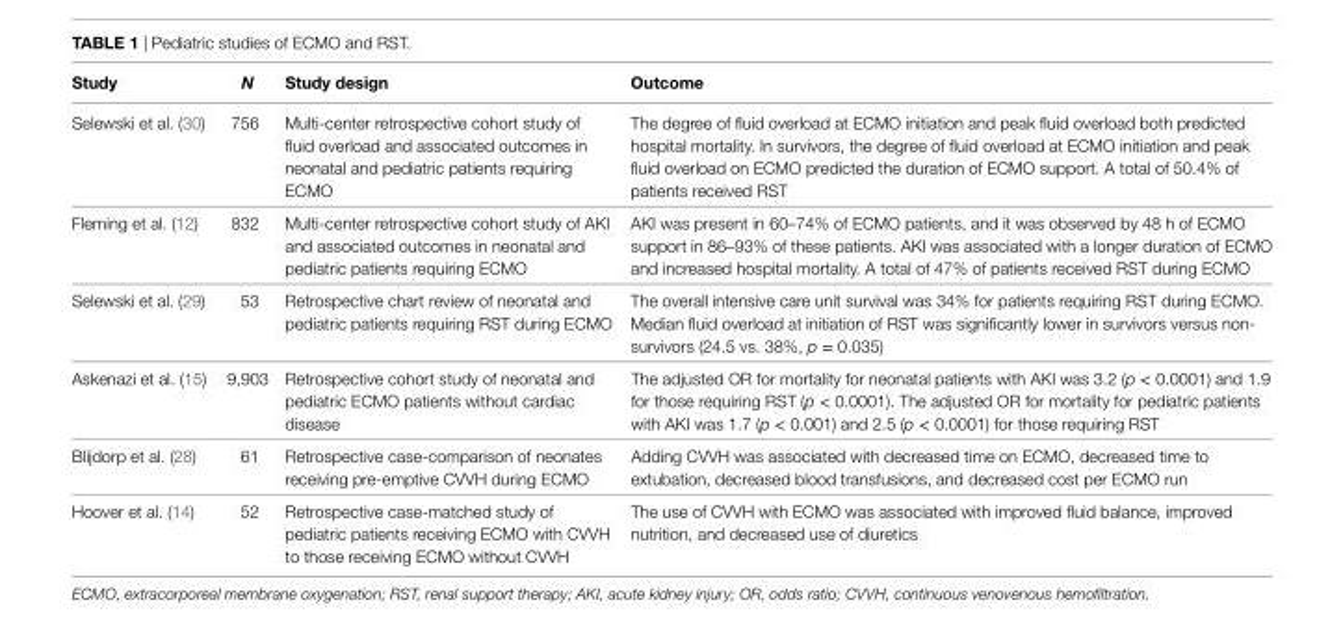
<table><thead><tr><td>Study</td><td>N</td><td>Study design</td><td>Outcome</td></tr></thead><tbody><tr><td>Selewski et al. (30)</td><td>756</td><td>Multi-center retrospective cohort study of fluid overload and associated outcomes in neonatal and pediatric patients requiring ECMO</td><td>The degree of fluid overload at ECMO initiation and peak fluid overload both predicted hospital mortality. In survivors, the degree of fluid overload at ECMO initiation and peak fluid overload on ECMO predicted the duration of ECMO support. A total of 50.4% of patients received RST</td></tr><tr><td>Fleming et al. (12)</td><td>832</td><td>Multi-center retrospective cohort study of AKI and associated outcomes in neonatal and pediatric patients requiring ECMO</td><td>AKI was present in 60–74% of ECMO patients, and it was observed by 48 h of ECMO support in 86–93% of these patients. AKI was associated with a longer duration of ECMO and increased hospital mortality. A total of 47% of patients received RST during ECMO</td></tr><tr><td>Selewski et al. (29)</td><td>53</td><td>Retrospective chart review of neonatal and pediatric patients requiring RST during ECMO</td><td>The overall intensive care unit survival was 34% for patients requiring RST during ECMO. Median fluid overload at initiation of RST was significantly lower in survivors versus non- survivors (24.5 vs. 38%, p = 0.035)</td></tr><tr><td>Askenazi et al. (15)</td><td>9,903</td><td>Retrospective cohort study of neonatal and pediatric ECMO patients without cardiac disease</td><td>The adjusted OR for mortality for neonatal patients with AKI was 3.2 (p &lt; 0.0001) and 1.9 for those requiring RST (p &lt; 0.0001). The adjusted OR for mortality for pediatric patients with AKI was 1.7 (p &lt; 0.001) and 2.5 (p &lt; 0.0001) for those requiring RST</td></tr><tr><td>Blijdorp et al. (28)</td><td>61</td><td>Retrospective case-comparison of neonates receiving pre-emptive CVVH during ECMO</td><td>Adding CVVH was associated with decreased time on ECMO, decreased time to extubation, decreased blood transfusions, and decreased cost per ECMO run</td></tr><tr><td>Hoover et al. (14)</td><td>52</td><td>Retrospective case-matched study of pediatric patients receiving ECMO with CVVH to those receiving ECMO without CVVH</td><td>The use of CVVH with ECMO was associated with improved fluid balance, improved nutrition, and decreased use of diuretics</td></tr></tbody></table>